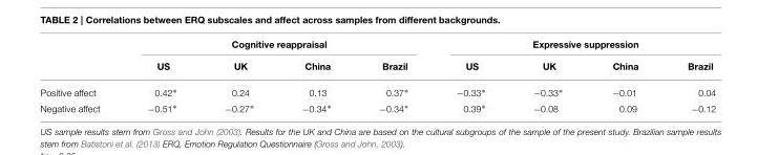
<table><thead><tr><td rowspan="2"></td><td colspan="4">Cognitive reappraisal</td><td colspan="4">Expressive suppression</td></tr><tr><td>US</td><td>UK</td><td>China</td><td>Brazil</td><td>US</td><td>UK</td><td>China</td><td>Brazil</td></tr></thead><tbody><tr><td>Positive affect</td><td>0.42∗</td><td>0.24</td><td>0.13</td><td>0.37∗</td><td>−0.33∗</td><td>−0.33∗</td><td>−0.01</td><td>0.04</td></tr><tr><td>Negative affect</td><td>−0.51∗</td><td>−0.27∗</td><td>−0.34∗</td><td>−0.34∗</td><td>0.39∗</td><td>−0.08</td><td>0.09</td><td>−0.12</td></tr></tbody></table>